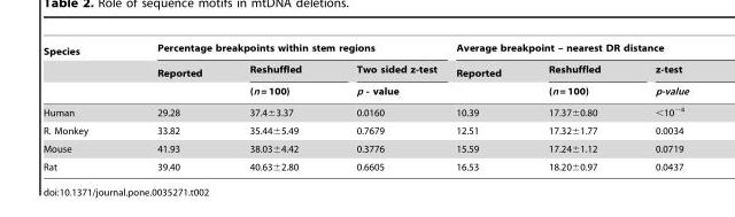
<table><thead><tr><td rowspan="3">Species</td><td colspan="3">Percentage breakpoints within stem regions</td><td colspan="3">Average breakpoint – nearest DR distance</td></tr><tr><td rowspan="2">Reported</td><td rowspan="2">Reshuffled (n = 100)</td><td rowspan="2">Two sided z-test p - value</td><td rowspan="2">Reported</td><td rowspan="2">Reshuffled (n = 100)</td><td rowspan="2">z-test p-value</td></tr><tr></tr></thead><tbody><tr><td>Human</td><td>29.28</td><td>37.4±3.37</td><td>0.0160</td><td>10.39</td><td>17.37±0.80</td><td>&lt;10<sup>−4</sup></td></tr><tr><td>R. Monkey</td><td>33.82</td><td>35.44±5.49</td><td>0.7679</td><td>12.51</td><td>17.32±1.77</td><td>0.0034</td></tr><tr><td>Mouse</td><td>41.93</td><td>38.03±4.42</td><td>0.3776</td><td>15.59</td><td>17.24±1.12</td><td>0.0719</td></tr><tr><td>Rat</td><td>39.40</td><td>40.63±2.80</td><td>0.6605</td><td>16.53</td><td>18.20±0.97</td><td>0.0437</td></tr></tbody></table>